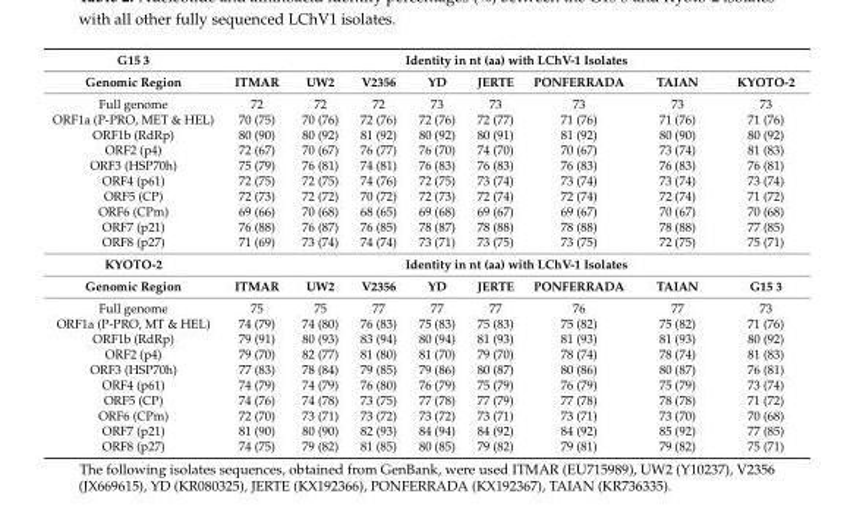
<table><tbody><tr><td>G15 3</td><td colspan="8">Identity in nt (aa) with LChV-1 Isolates</td></tr><tr><td>Genomic Region</td><td>ITMAR</td><td>UW2</td><td>V2356</td><td>YD</td><td>JERTE</td><td>PONFERRADA</td><td>TAIAN</td><td>KYOTO-2</td></tr><tr><td>Full genome</td><td>72</td><td>72</td><td>72</td><td>73</td><td>73</td><td>73</td><td>73</td><td>73</td></tr><tr><td>ORF1a (P-PRO, MET &amp; HEL)</td><td>70 (75)</td><td>70 (76)</td><td>72 (76)</td><td>72 (76)</td><td>72 (77)</td><td>71 (76)</td><td>71 (76)</td><td>71 (76)</td></tr><tr><td>ORF1b (RdRp)</td><td>80 (90)</td><td>80 (92)</td><td>81 (92)</td><td>80 (92)</td><td>80 (91)</td><td>81 (92)</td><td>80 (90)</td><td>80 (92)</td></tr><tr><td>ORF2 (p4)</td><td>72 (67)</td><td>70 (67)</td><td>76 (77)</td><td>76 (70)</td><td>74 (70)</td><td>70 (67)</td><td>73 (74)</td><td>81 (83)</td></tr><tr><td>ORF3 (HSP70h)</td><td>75 (79)</td><td>76 (81)</td><td>74 (81)</td><td>76 (83)</td><td>76 (83)</td><td>76 (83)</td><td>76 (83)</td><td>76 (81)</td></tr><tr><td>ORF4 (p61)</td><td>72 (75)</td><td>72 (75)</td><td>74 (76)</td><td>72 (75)</td><td>73 (74)</td><td>73 (74)</td><td>73 (74)</td><td>73 (74)</td></tr><tr><td>ORF5 (CP)</td><td>72 (73)</td><td>72 (72)</td><td>70 (72)</td><td>72 (73)</td><td>72 (74)</td><td>72 (74)</td><td>72 (74)</td><td>71 (72)</td></tr><tr><td>ORF6 (CPm)</td><td>69 (66)</td><td>70 (68)</td><td>68 (65)</td><td>69 (68)</td><td>69 (67)</td><td>69 (67)</td><td>70 (67)</td><td>70 (68)</td></tr><tr><td>ORF7 (p21)</td><td>76 (88)</td><td>76 (87)</td><td>76 (85)</td><td>78 (87)</td><td>78 (88)</td><td>78 (88)</td><td>78 (88)</td><td>77 (85)</td></tr><tr><td>ORF8 (p27)</td><td>71 (69)</td><td>73 (74)</td><td>74 (74)</td><td>73 (71)</td><td>73 (75)</td><td>73 (75)</td><td>72 (75)</td><td>75 (71)</td></tr><tr><td>KYOTO-2</td><td colspan="8">Identity in nt (aa) with LChV-1 Isolates</td></tr><tr><td>Genomic Region</td><td>ITMAR</td><td>UW2</td><td>V2356</td><td>YD</td><td>JERTE</td><td>PONFERRADA</td><td>TAIAN</td><td>G15 3</td></tr><tr><td>Full genome</td><td>75</td><td>75</td><td>77</td><td>77</td><td>77</td><td>76</td><td>77</td><td>73</td></tr><tr><td>ORF1a (P-PRO, MT &amp; HEL)</td><td>74 (79)</td><td>74 (80)</td><td>76 (83)</td><td>75 (83)</td><td>75 (83)</td><td>75 (82)</td><td>75 (82)</td><td>71 (76)</td></tr><tr><td>ORF1b (RdRp)</td><td>79 (91)</td><td>80 (93)</td><td>83 (94)</td><td>80 (94)</td><td>81 (93)</td><td>81 (93)</td><td>81 (93)</td><td>80 (92)</td></tr><tr><td>ORF2 (p4)</td><td>79 (70)</td><td>82 (77)</td><td>81 (80)</td><td>81 (70)</td><td>79 (70)</td><td>78 (74)</td><td>78 (74)</td><td>81 (83)</td></tr><tr><td>ORF3 (HSP70h)</td><td>77 (83)</td><td>78 (84)</td><td>79 (85)</td><td>79 (86)</td><td>80 (87)</td><td>80 (86)</td><td>80 (87)</td><td>76 (81)</td></tr><tr><td>ORF4 (p61)</td><td>74 (79)</td><td>74 (79)</td><td>76 (80)</td><td>76 (79)</td><td>75 (79)</td><td>76 (79)</td><td>75 (79)</td><td>73 (74)</td></tr><tr><td>ORF5 (CP)</td><td>74 (76)</td><td>74 (78)</td><td>73 (75)</td><td>77 (78)</td><td>77 (79)</td><td>77 (78)</td><td>78 (78)</td><td>71 (72)</td></tr><tr><td>ORF6 (CPm)</td><td>72 (70)</td><td>73 (71)</td><td>73 (72)</td><td>73 (72)</td><td>73 (71)</td><td>73 (71)</td><td>73 (70)</td><td>70 (68)</td></tr><tr><td>ORF7 (p21)</td><td>81 (90)</td><td>80 (90)</td><td>82 (93)</td><td>84 (94)</td><td>84 (92)</td><td>84 (92)</td><td>85 (92)</td><td>77 (85)</td></tr><tr><td>ORF8 (p27)</td><td>74 (75)</td><td>79 (82)</td><td>81 (85)</td><td>80 (85)</td><td>79 (82)</td><td>79 (81)</td><td>79 (82)</td><td>75 (71)</td></tr></tbody></table>